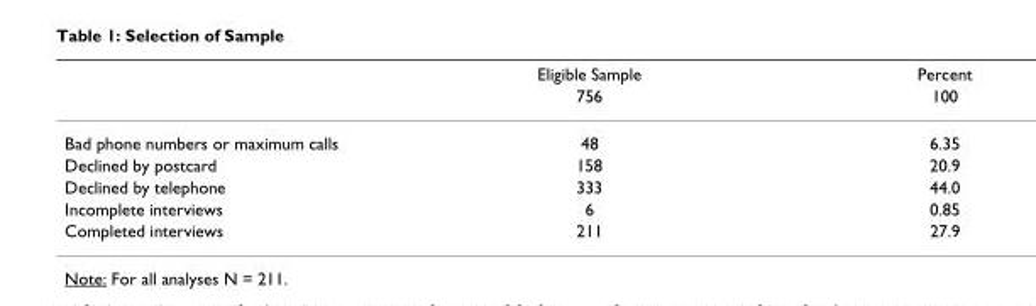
<table><thead><tr><td rowspan="2"></td><td rowspan="2">Eligible Sample 756</td><td rowspan="2">Percent 100</td></tr><tr></tr></thead><tbody><tr><td>Bad phone numbers or maximum calls</td><td>48</td><td>6.35</td></tr><tr><td>Declined by postcard</td><td>158</td><td>20.9</td></tr><tr><td>Declined by telephone</td><td>333</td><td>44.0</td></tr><tr><td>Incomplete interviews</td><td>6</td><td>0.85</td></tr><tr><td>Completed interviews</td><td>211</td><td>27.9</td></tr></tbody></table>